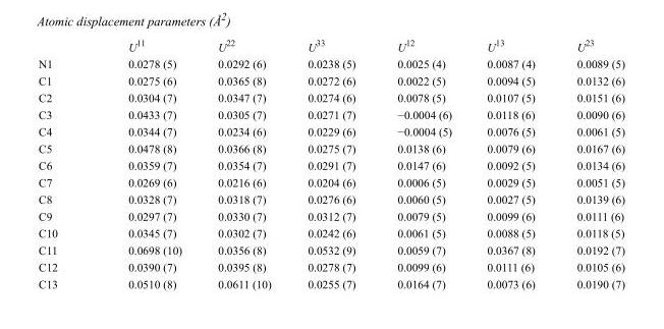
<table><thead><tr><td></td><td>U<sup>11</sup></td><td>U<sup>22</sup></td><td>U<sup>33</sup></td><td>U<sup>12</sup></td><td>U<sup>13</sup></td><td>U<sup>23</sup></td></tr></thead><tbody><tr><td>N1</td><td>0.0278 (5)</td><td>0.0292 (6)</td><td>0.0238 (5)</td><td>0.0025 (4)</td><td>0.0087 (4)</td><td>0.0089 (5)</td></tr><tr><td>C1</td><td>0.0275 (6)</td><td>0.0365 (8)</td><td>0.0272 (6)</td><td>0.0022 (5)</td><td>0.0094 (5)</td><td>0.0132 (6)</td></tr><tr><td>C2</td><td>0.0304 (7)</td><td>0.0347 (7)</td><td>0.0274 (6)</td><td>0.0078 (5)</td><td>0.0107 (5)</td><td>0.0151 (6)</td></tr><tr><td>C3</td><td>0.0433 (7)</td><td>0.0305 (7)</td><td>0.0271 (7)</td><td>−0.0004 (6)</td><td>0.0118 (6)</td><td>0.0090 (6)</td></tr><tr><td>C4</td><td>0.0344 (7)</td><td>0.0234 (6)</td><td>0.0229 (6)</td><td>−0.0004 (5)</td><td>0.0076 (5)</td><td>0.0061 (5)</td></tr><tr><td>C5</td><td>0.0478 (8)</td><td>0.0366 (8)</td><td>0.0275 (7)</td><td>0.0138 (6)</td><td>0.0079 (6)</td><td>0.0167 (6)</td></tr><tr><td>C6</td><td>0.0359 (7)</td><td>0.0354 (7)</td><td>0.0291 (7)</td><td>0.0147 (6)</td><td>0.0092 (5)</td><td>0.0134 (6)</td></tr><tr><td>C7</td><td>0.0269 (6)</td><td>0.0216 (6)</td><td>0.0204 (6)</td><td>0.0006 (5)</td><td>0.0029 (5)</td><td>0.0051 (5)</td></tr><tr><td>C8</td><td>0.0328 (7)</td><td>0.0318 (7)</td><td>0.0276 (6)</td><td>0.0060 (5)</td><td>0.0027 (5)</td><td>0.0139 (6)</td></tr><tr><td>C9</td><td>0.0297 (7)</td><td>0.0330 (7)</td><td>0.0312 (7)</td><td>0.0079 (5)</td><td>0.0099 (6)</td><td>0.0111 (6)</td></tr><tr><td>C10</td><td>0.0345 (7)</td><td>0.0302 (7)</td><td>0.0242 (6)</td><td>0.0061 (5)</td><td>0.0088 (5)</td><td>0.0118 (5)</td></tr><tr><td>C11</td><td>0.0698 (10)</td><td>0.0356 (8)</td><td>0.0532 (9)</td><td>0.0059 (7)</td><td>0.0367 (8)</td><td>0.0192 (7)</td></tr><tr><td>C12</td><td>0.0390 (7)</td><td>0.0395 (8)</td><td>0.0278 (7)</td><td>0.0099 (6)</td><td>0.0111 (6)</td><td>0.0105 (6)</td></tr><tr><td>C13</td><td>0.0510 (8)</td><td>0.0611 (10)</td><td>0.0255 (7)</td><td>0.0164 (7)</td><td>0.0073 (6)</td><td>0.0190 (7)</td></tr></tbody></table>